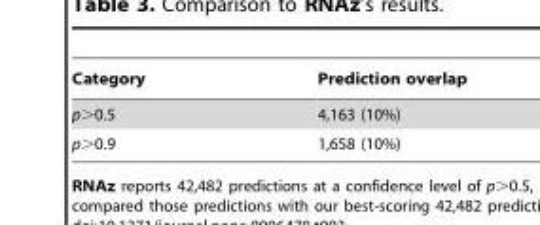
<table><thead><tr><td>Category</td><td>Prediction overlap</td></tr></thead><tbody><tr><td>p&gt;0.5</td><td>4,163 (10%)</td></tr><tr><td>p&gt;0.9</td><td>1,658 (10%)</td></tr></tbody></table>